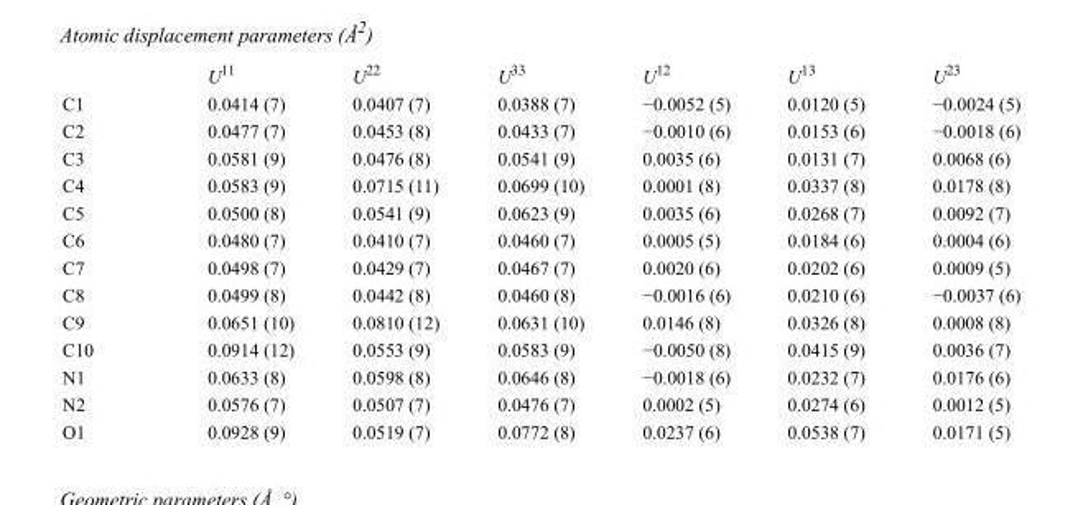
<table><thead><tr><td></td><td>U<sup>11</sup></td><td>U<sup>22</sup></td><td>U<sup>33</sup></td><td>U<sup>12</sup></td><td>U<sup>13</sup></td><td>U<sup>23</sup></td></tr></thead><tbody><tr><td>C1</td><td>0.0414 (7)</td><td>0.0407 (7)</td><td>0.0388 (7)</td><td>−0.0052 (5)</td><td>0.0120 (5)</td><td>−0.0024 (5)</td></tr><tr><td>C2</td><td>0.0477 (7)</td><td>0.0453 (8)</td><td>0.0433 (7)</td><td>−0.0010 (6)</td><td>0.0153 (6)</td><td>−0.0018 (6)</td></tr><tr><td>C3</td><td>0.0581 (9)</td><td>0.0476 (8)</td><td>0.0541 (9)</td><td>0.0035 (6)</td><td>0.0131 (7)</td><td>0.0068 (6)</td></tr><tr><td>C4</td><td>0.0583 (9)</td><td>0.0715 (11)</td><td>0.0699 (10)</td><td>0.0001 (8)</td><td>0.0337 (8)</td><td>0.0178 (8)</td></tr><tr><td>C5</td><td>0.0500 (8)</td><td>0.0541 (9)</td><td>0.0623 (9)</td><td>0.0035 (6)</td><td>0.0268 (7)</td><td>0.0092 (7)</td></tr><tr><td>C6</td><td>0.0480 (7)</td><td>0.0410 (7)</td><td>0.0460 (7)</td><td>0.0005 (5)</td><td>0.0184 (6)</td><td>0.0004 (6)</td></tr><tr><td>C7</td><td>0.0498 (7)</td><td>0.0429 (7)</td><td>0.0467 (7)</td><td>0.0020 (6)</td><td>0.0202 (6)</td><td>0.0009 (5)</td></tr><tr><td>C8</td><td>0.0499 (8)</td><td>0.0442 (8)</td><td>0.0460 (8)</td><td>−0.0016 (6)</td><td>0.0210 (6)</td><td>−0.0037 (6)</td></tr><tr><td>C9</td><td>0.0651 (10)</td><td>0.0810 (12)</td><td>0.0631 (10)</td><td>0.0146 (8)</td><td>0.0326 (8)</td><td>0.0008 (8)</td></tr><tr><td>C10</td><td>0.0914 (12)</td><td>0.0553 (9)</td><td>0.0583 (9)</td><td>−0.0050 (8)</td><td>0.0415 (9)</td><td>0.0036 (7)</td></tr><tr><td>N1</td><td>0.0633 (8)</td><td>0.0598 (8)</td><td>0.0646 (8)</td><td>−0.0018 (6)</td><td>0.0232 (7)</td><td>0.0176 (6)</td></tr><tr><td>N2</td><td>0.0576 (7)</td><td>0.0507 (7)</td><td>0.0476 (7)</td><td>0.0002 (5)</td><td>0.0274 (6)</td><td>0.0012 (5)</td></tr><tr><td>O1</td><td>0.0928 (9)</td><td>0.0519 (7)</td><td>0.0772 (8)</td><td>0.0237 (6)</td><td>0.0538 (7)</td><td>0.0171 (5)</td></tr></tbody></table>